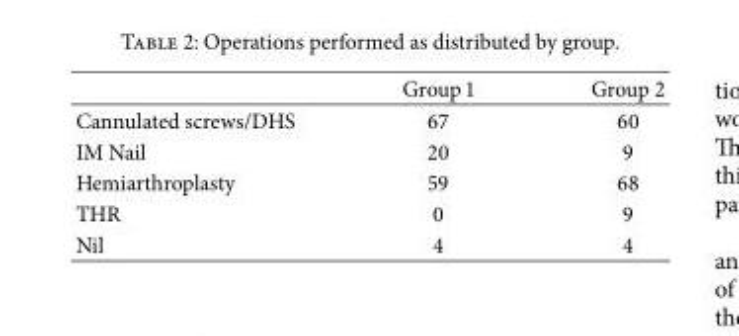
<table><thead><tr><td></td><td>Group 1</td><td>Group 2</td></tr></thead><tbody><tr><td>Cannulated screws/DHS</td><td>67</td><td>60</td></tr><tr><td>IM Nail</td><td>20</td><td>9</td></tr><tr><td>Hemiarthroplasty</td><td>59</td><td>68</td></tr><tr><td>THR</td><td>0</td><td>9</td></tr><tr><td>Nil</td><td>4</td><td>4</td></tr></tbody></table>